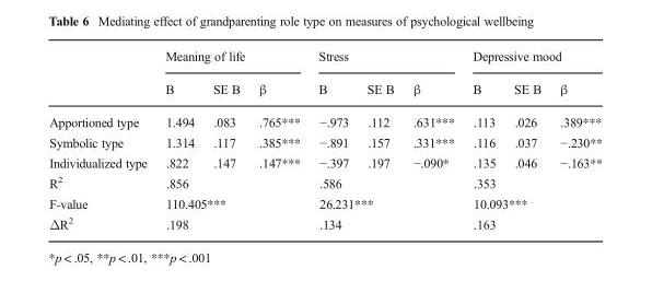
<table><thead><tr><td rowspan="2"></td><td colspan="3">Meaning of life</td><td colspan="3">Stress</td><td colspan="3">Depressive mood</td></tr><tr><td>B</td><td>SE B</td><td>β</td><td>B</td><td>SE B</td><td>β</td><td>B</td><td>SE B</td><td>β</td></tr></thead><tbody><tr><td>Apportioned type</td><td>1.494</td><td>.083</td><td>.765***</td><td>−.973</td><td>.112</td><td>.631***</td><td>.113</td><td>.026</td><td>.389***</td></tr><tr><td>Symbolic type</td><td>1.314</td><td>.117</td><td>.385***</td><td>−.891</td><td>.157</td><td>.331***</td><td>.116</td><td>.037</td><td>−.230**</td></tr><tr><td>Individualized type</td><td>.822</td><td>.147</td><td>.147***</td><td>−.397</td><td>.197</td><td>−.090*</td><td>.135</td><td>.046</td><td>−.163**</td></tr><tr><td>R<sup>2</sup></td><td colspan="3">.856</td><td colspan="3">.586</td><td colspan="3">.353</td></tr><tr><td>F-value</td><td colspan="3">110.405***</td><td colspan="3">26.231***</td><td colspan="3">10.093***</td></tr><tr><td>ΔR<sup>2</sup></td><td colspan="3">.198</td><td colspan="3">.134</td><td colspan="3">.163</td></tr></tbody></table>